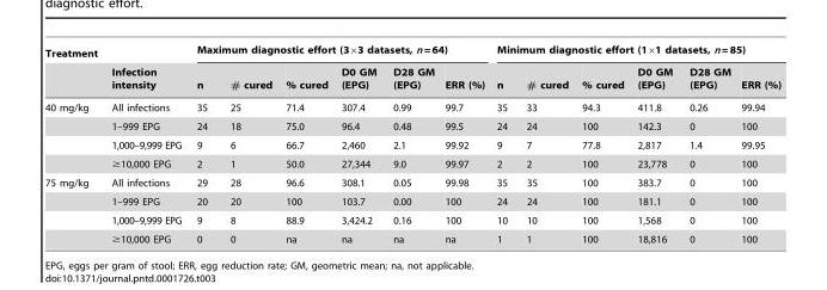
<table><thead><tr><td rowspan="2">Treatment</td><td rowspan="2">Infection intensity</td><td colspan="6">Maximum diagnostic effort (3×3 datasets, n = 64)</td><td colspan="6">Minimum diagnostic effort (1×1 datasets, n = 85)</td></tr><tr><td>n</td><td># cured</td><td>% cured</td><td>D0 GM (EPG)</td><td>D28 GM (EPG)</td><td>ERR (%)</td><td>n</td><td># cured</td><td>% cured</td><td>D0 GM (EPG)</td><td>D28 GM (EPG)</td><td>ERR (%)</td></tr></thead><tbody><tr><td rowspan="4">40 mg/kg</td><td>All infections</td><td>35</td><td>25</td><td>71.4</td><td>307.4</td><td>0.99</td><td>99.7</td><td>35</td><td>33</td><td>94.3</td><td>411.8</td><td>0.26</td><td>99.94</td></tr><tr><td>1–999 EPG</td><td>24</td><td>18</td><td>75.0</td><td>96.4</td><td>0.48</td><td>99.5</td><td>24</td><td>24</td><td>100</td><td>142.3</td><td>0</td><td>100</td></tr><tr><td>1,000–9,999 EPG</td><td>9</td><td>6</td><td>66.7</td><td>2,460</td><td>2.1</td><td>99.92</td><td>9</td><td>7</td><td>77.8</td><td>2,817</td><td>1.4</td><td>99.95</td></tr><tr><td>≥10,000 EPG</td><td>2</td><td>1</td><td>50.0</td><td>27,344</td><td>9.0</td><td>99.97</td><td>2</td><td>2</td><td>100</td><td>23,778</td><td>0</td><td>100</td></tr><tr><td rowspan="4">75 mg/kg</td><td>All infections</td><td>29</td><td>28</td><td>96.6</td><td>308.1</td><td>0.05</td><td>99.98</td><td>35</td><td>35</td><td>100</td><td>383.7</td><td>0</td><td>100</td></tr><tr><td>1–999 EPG</td><td>20</td><td>20</td><td>100</td><td>103.7</td><td>0.00</td><td>100</td><td>24</td><td>24</td><td>100</td><td>181.1</td><td>0</td><td>100</td></tr><tr><td>1,000–9,999 EPG</td><td>9</td><td>8</td><td>88.9</td><td>3,424.2</td><td>0.16</td><td>100</td><td>10</td><td>10</td><td>100</td><td>1,568</td><td>0</td><td>100</td></tr><tr><td>≥10,000 EPG</td><td>0</td><td>0</td><td>na</td><td>na</td><td>na</td><td>na</td><td>1</td><td>1</td><td>100</td><td>18,816</td><td>0</td><td>100</td></tr></tbody></table>